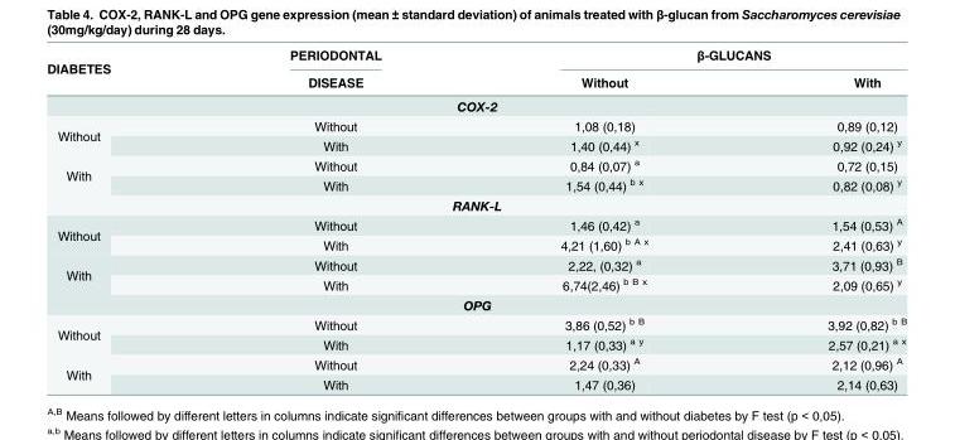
<table><thead><tr><td rowspan="2">DIABETES</td><td rowspan="2">PERIODONTAL DISEASE</td><td colspan="2">β-GLUCANS</td></tr><tr><td>Without</td><td>With</td></tr></thead><tbody><tr><td colspan="4">COX-2</td></tr><tr><td rowspan="2">Without</td><td>Without</td><td>1,08 (0,18)</td><td>0,89 (0,12)</td></tr><tr><td>With</td><td>1,40 (0,44) <sup>x</sup></td><td>0,92 (0,24) <sup>y</sup></td></tr><tr><td rowspan="2">With</td><td>Without</td><td>0,84 (0,07) <sup>a</sup></td><td>0,72 (0,15)</td></tr><tr><td>With</td><td>1,54 (0,44) <sup>b x</sup></td><td>0,82 (0,08) <sup>y</sup></td></tr><tr><td colspan="4">RANK-L</td></tr><tr><td rowspan="2">Without</td><td>Without</td><td>1,46 (0,42) <sup>a</sup></td><td>1,54 (0,53) <sup>A</sup></td></tr><tr><td>With</td><td>4,21 (1,60) <sup>b A x</sup></td><td>2,41 (0,63) <sup>y</sup></td></tr><tr><td rowspan="2">With</td><td>Without</td><td>2,22, (0,32) <sup>a</sup></td><td>3,71 (0,93) <sup>B</sup></td></tr><tr><td>With</td><td>6,74(2,46) <sup>b B x</sup></td><td>2,09 (0,65) <sup>y</sup></td></tr><tr><td colspan="4">OPG</td></tr><tr><td rowspan="2">Without</td><td>Without</td><td>3,86 (0,52) <sup>b B</sup></td><td>3,92 (0,82) <sup>b B</sup></td></tr><tr><td>With</td><td>1,17 (0,33) <sup>a y</sup></td><td>2,57 (0,21) <sup>a x</sup></td></tr><tr><td rowspan="2">With</td><td>Without</td><td>2,24 (0,33) <sup>A</sup></td><td>2,12 (0,96) <sup>A</sup></td></tr><tr><td>With</td><td>1,47 (0,36)</td><td>2,14 (0,63)</td></tr></tbody></table>